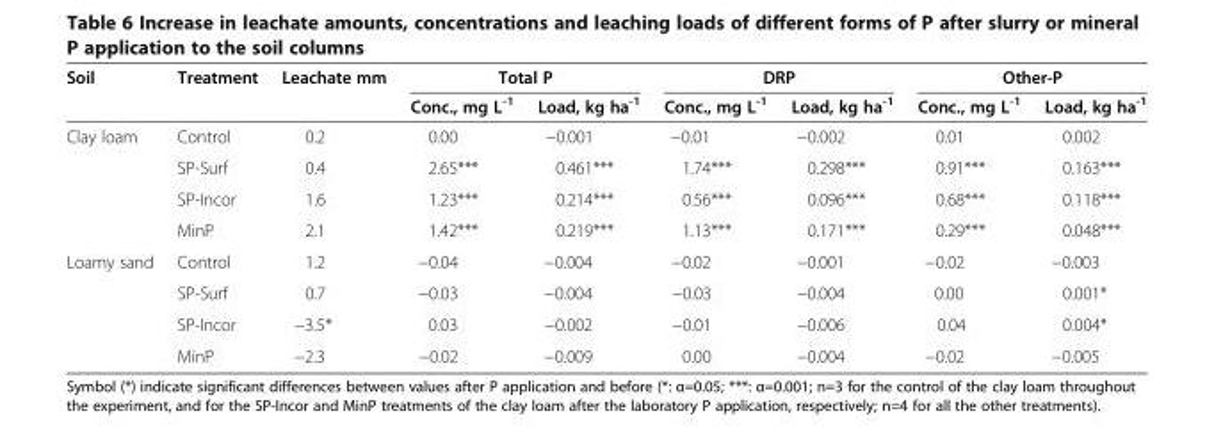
<table><thead><tr><td rowspan="2">Soil</td><td rowspan="2">Treatment</td><td rowspan="2">Leachate mm</td><td colspan="2">Total P</td><td colspan="2">DRP</td><td colspan="2">Other-P</td></tr><tr><td>Conc., mg L<sup>-1</sup></td><td>Load, kg ha<sup>-1</sup></td><td>Conc., mg L<sup>-1</sup></td><td>Load, kg ha<sup>-1</sup></td><td>Conc., mg L<sup>-1</sup></td><td>Load, kg ha<sup>-1</sup></td></tr></thead><tbody><tr><td rowspan="4">Clay loam</td><td>Control</td><td>0.2</td><td>0.00</td><td>−0.001</td><td>−0.01</td><td>−0.002</td><td>0.01</td><td>0.002</td></tr><tr><td>SP-Surf</td><td>0.4</td><td>2.65***</td><td>0.461***</td><td>1.74***</td><td>0.298***</td><td>0.91***</td><td>0.163***</td></tr><tr><td>SP-Incor</td><td>1.6</td><td>1.23***</td><td>0.214***</td><td>0.56***</td><td>0.096***</td><td>0.68***</td><td>0.118***</td></tr><tr><td>MinP</td><td>2.1</td><td>1.42***</td><td>0.219***</td><td>1.13***</td><td>0.171***</td><td>0.29***</td><td>0.048***</td></tr><tr><td rowspan="4">Loamy sand</td><td>Control</td><td>1.2</td><td>−0.04</td><td>−0.004</td><td>−0.02</td><td>−0.001</td><td>−0.02</td><td>−0.003</td></tr><tr><td>SP-Surf</td><td>0.7</td><td>−0.03</td><td>−0.004</td><td>−0.03</td><td>−0.004</td><td>0.00</td><td>0.001*</td></tr><tr><td>SP-Incor</td><td>−3.5*</td><td>0.03</td><td>−0.002</td><td>−0.01</td><td>−0.006</td><td>0.04</td><td>0.004*</td></tr><tr><td>MinP</td><td>−2.3</td><td>−0.02</td><td>−0.009</td><td>0.00</td><td>−0.004</td><td>−0.02</td><td>−0.005</td></tr></tbody></table>